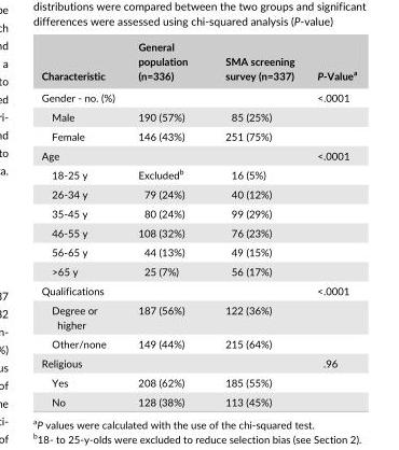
<table><thead><tr><td>Characteristic</td><td>General population (n=336)</td><td>SMA screening survey (n=337)</td><td>P- Value<sup>a</sup></td></tr></thead><tbody><tr><td colspan="3">Gender - no. (%)</td><td>&lt;.0001</td></tr><tr><td>Male</td><td>190 (57%)</td><td>85 (25%)</td><td></td></tr><tr><td>Female</td><td>146 (43%)</td><td>251 (75%)</td><td></td></tr><tr><td colspan="3">Age</td><td>&lt;.0001</td></tr><tr><td>18- 25 y</td><td>Excluded<sup>b</sup></td><td>16 (5%)</td><td></td></tr><tr><td>26- 34 y</td><td>79 (24%)</td><td>40 (12%)</td><td></td></tr><tr><td>35- 45 y</td><td>80 (24%)</td><td>99 (29%)</td><td></td></tr><tr><td>46- 55 y</td><td>108 (32%)</td><td>76 (23%)</td><td></td></tr><tr><td>56- 65 y</td><td>44 (13%)</td><td>49 (15%)</td><td></td></tr><tr><td>&gt;65 y</td><td>25 (7%)</td><td>56 (17%)</td><td></td></tr><tr><td colspan="3">Qualifications</td><td>&lt;.0001</td></tr><tr><td>Degree or higher</td><td>187 (56%)</td><td>122 (36%)</td><td></td></tr><tr><td>Other/none</td><td>149 (44%)</td><td>215 (64%)</td><td></td></tr><tr><td colspan="3">Religious</td><td>.96</td></tr><tr><td>Yes</td><td>208 (62%)</td><td>185 (55%)</td><td></td></tr><tr><td>No</td><td>128 (38%)</td><td>113 (45%)</td><td></td></tr></tbody></table>